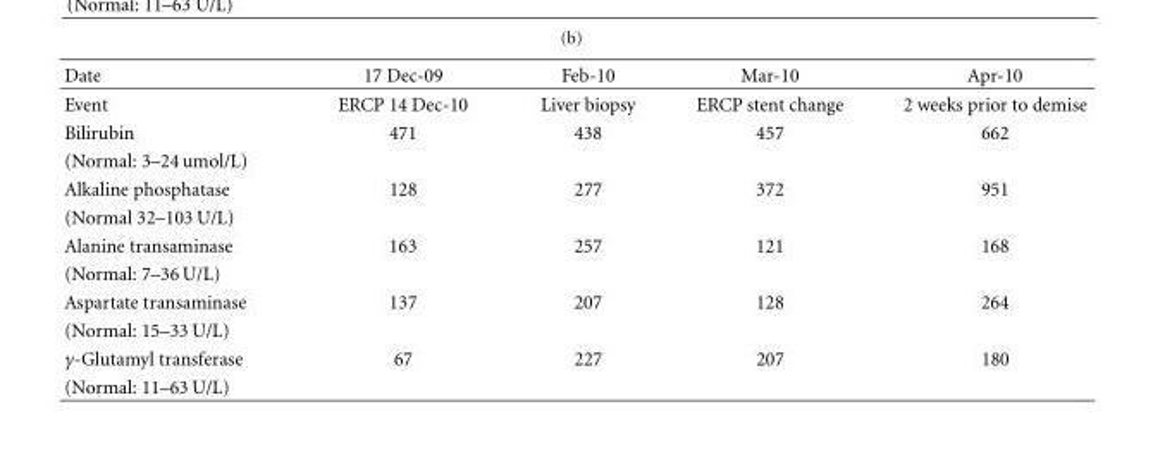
<table><thead><tr><td>Date</td><td>17 Dec-09</td><td>Feb-10</td><td>Mar-10</td><td>Apr-10</td></tr></thead><tbody><tr><td>Event</td><td>ERCP 14 Dec-10</td><td>Liver biopsy</td><td>ERCP stent change</td><td>2 weeks prior to demise</td></tr><tr><td>Bilirubin</td><td>471</td><td>438</td><td>457</td><td>662</td></tr><tr><td colspan="5">(Normal: 3–24 umol/L)</td></tr><tr><td>Alkaline phosphatase</td><td>128</td><td>277</td><td>372</td><td>951</td></tr><tr><td colspan="5">(Normal 32–103 U/L)</td></tr><tr><td>Alanine transaminase</td><td>163</td><td>257</td><td>121</td><td>168</td></tr><tr><td colspan="5">(Normal: 7–36 U/L)</td></tr><tr><td>Aspartate transaminase</td><td>137</td><td>207</td><td>128</td><td>264</td></tr><tr><td colspan="5">(Normal: 15–33 U/L)</td></tr><tr><td>γ-Glutamyl transferase</td><td>67</td><td>227</td><td>207</td><td>180</td></tr><tr><td>(Normal: 11–63 U/L)</td><td></td><td></td><td></td><td></td></tr></tbody></table>